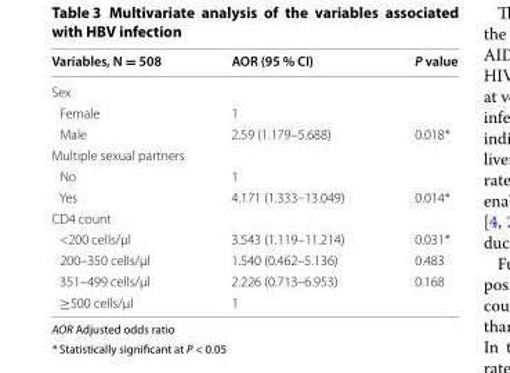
<table><thead><tr><td>Variables, N = 508</td><td>AOR (95 % CI)</td><td>P value</td></tr></thead><tbody><tr><td colspan="3">Sex</td></tr><tr><td>Female</td><td>1</td><td></td></tr><tr><td>Male</td><td>2.59 (1.179–5.688)</td><td>0.018*</td></tr><tr><td colspan="3">Multiple sexual partners</td></tr><tr><td>No</td><td>1</td><td></td></tr><tr><td>Yes</td><td>4.171 (1.333–13.049)</td><td>0.014*</td></tr><tr><td colspan="3">CD4 count</td></tr><tr><td>&lt;200 cells/μl</td><td>3.543 (1.119–11.214)</td><td>0.031*</td></tr><tr><td>200–350 cells/μl</td><td>1.540 (0.462–5.136)</td><td>0.483</td></tr><tr><td>351–499 cells/μl</td><td>2.226 (0.713–6.953)</td><td>0.168</td></tr><tr><td>≥500 cells/μl</td><td>1</td><td></td></tr></tbody></table>